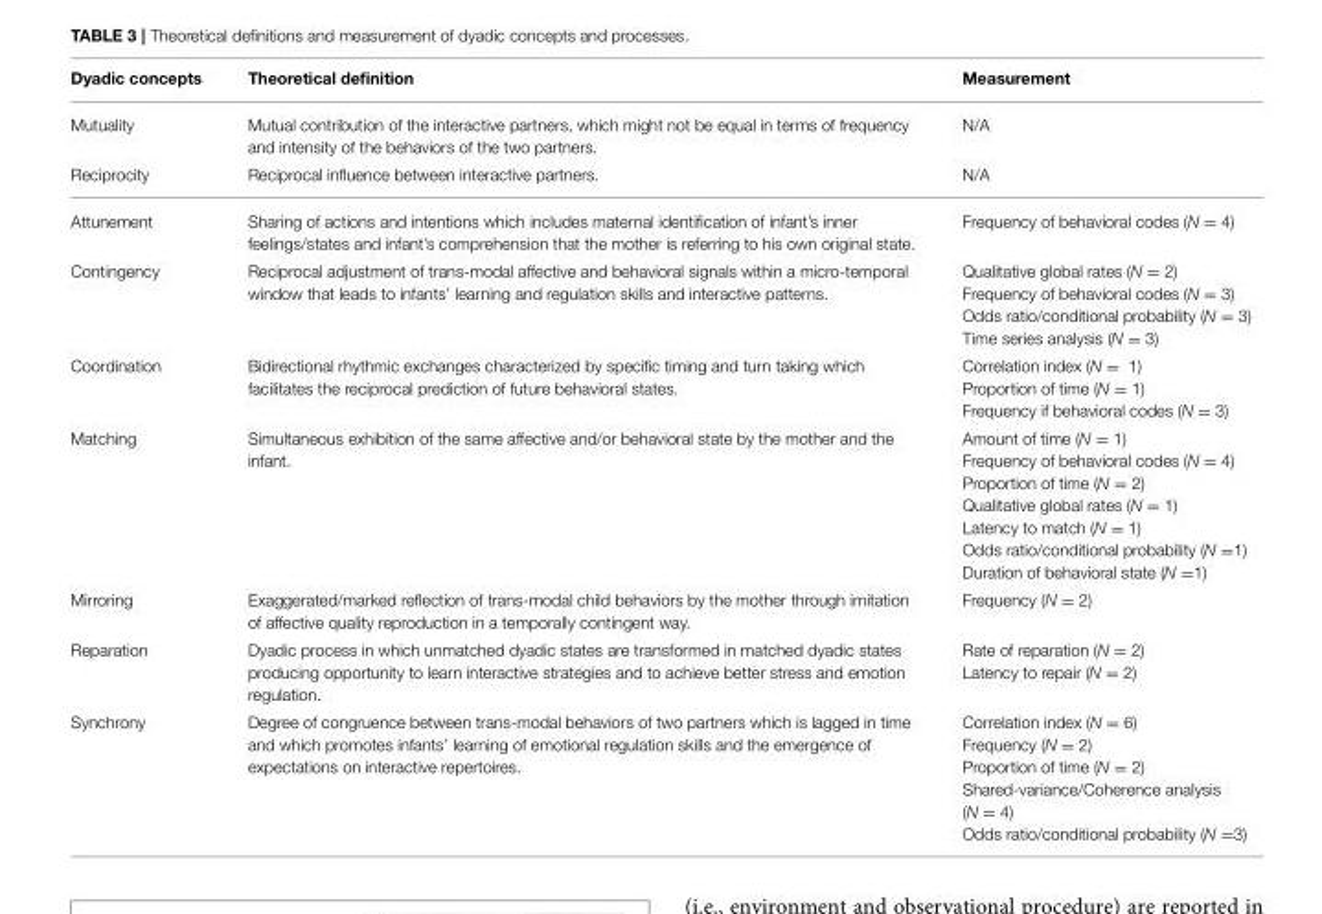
<table><thead><tr><td>Dyadic concepts</td><td>Theoretical definition</td><td>Measurement</td></tr></thead><tbody><tr><td>Mutuality</td><td>Mutual contribution of the interactive partners, which might not be equal in terms of frequency and intensity of the behaviors of the two partners.</td><td>N/A</td></tr><tr><td>Reciprocity</td><td>Reciprocal influence between interactive partners.</td><td>N/A</td></tr><tr><td>Attunement</td><td>Sharing of actions and intentions which includes maternal identification of infant’s inner feelings/states and infant’s comprehension that the mother is referring to his own original state.</td><td>Frequency of behavioral codes (N = 4)</td></tr><tr><td>Contingency</td><td>Reciprocal adjustment of trans-modal affective and behavioral signals within a micro-temporal window that leads to infants’ learning and regulation skills and interactive patterns.</td><td>Qualitative global rates (N = 2) Frequency of behavioral codes (N = 3) Odds ratio/conditional probability (N = 3) Time series analysis (N = 3)</td></tr><tr><td>Coordination</td><td>Bidirectional rhythmic exchanges characterized by specific timing and turn taking which facilitates the reciprocal prediction of future behavioral states.</td><td>Correlation index (N = 1) Proportion of time (N = 1) Frequency if behavioral codes (N = 3)</td></tr><tr><td>Matching</td><td>Simultaneous exhibition of the same affective and/or behavioral state by the mother and the infant.</td><td>Amount of time (N = 1) Frequency of behavioral codes (N = 4) Proportion of time (N = 2) Qualitative global rates (N = 1) Latency to match (N = 1) Odds ratio/conditional probability (N =1) Duration of behavioral state (N =1)</td></tr><tr><td>Mirroring</td><td>Exaggerated/marked reflection of trans-modal child behaviors by the mother through imitation of affective quality reproduction in a temporally contingent way.</td><td>Frequency (N = 2)</td></tr><tr><td>Reparation</td><td>Dyadic process in which unmatched dyadic states are transformed in matched dyadic states producing opportunity to learn interactive strategies and to achieve better stress and emotion regulation.</td><td>Rate of reparation (N = 2) Latency to repair (N = 2)</td></tr><tr><td>Synchrony</td><td>Degree of congruence between trans-modal behaviors of two partners which is lagged in time and which promotes infants’ learning of emotional regulation skills and the emergence of expectations on interactive repertoires.</td><td>Correlation index (N = 6) Frequency (N = 2) Proportion of time (N = 2) Shared-variance/Coherence analysis (N = 4) Odds ratio/conditional probability (N =3)</td></tr></tbody></table>